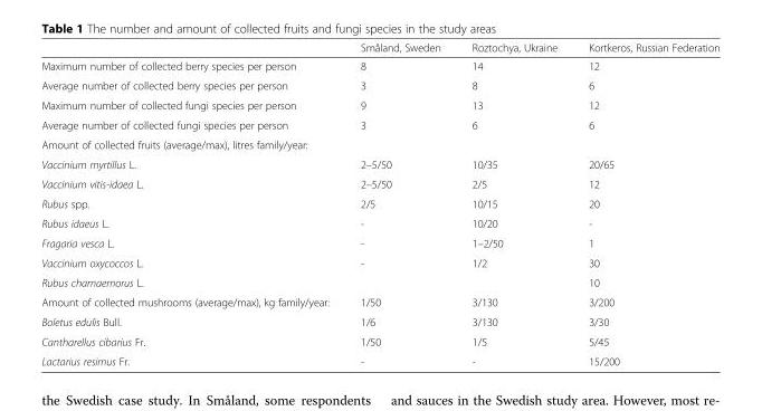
<table><thead><tr><td></td><td>Småland, Sweden</td><td>Roztochya, Ukraine</td><td>Kortkeros, Russian Federation</td></tr></thead><tbody><tr><td>Maximum number of collected berry species per person</td><td>8</td><td>14</td><td>12</td></tr><tr><td>Average number of collected berry species per person</td><td>3</td><td>8</td><td>6</td></tr><tr><td>Maximum number of collected fungi species per person</td><td>9</td><td>13</td><td>12</td></tr><tr><td>Average number of collected fungi species per person</td><td>3</td><td>6</td><td>6</td></tr><tr><td colspan="4">Amount of collected fruits (average/max), litres family/year:</td></tr><tr><td>Vaccinium myrtillus L.</td><td>2–5/50</td><td>10/35</td><td>20/65</td></tr><tr><td>Vaccinium vitis-idaea L.</td><td>2–5/50</td><td>2/5</td><td>12</td></tr><tr><td>Rubus spp.</td><td>2/5</td><td>10/15</td><td>20</td></tr><tr><td>Rubus idaeus L.</td><td>-</td><td>10/20</td><td>-</td></tr><tr><td>Fragaria vesca L.</td><td>-</td><td>1–2/50</td><td>1</td></tr><tr><td>Vaccinium oxycoccos L.</td><td>-</td><td>1/2</td><td>30</td></tr><tr><td>Rubus chamaemorus L.</td><td></td><td></td><td>10</td></tr><tr><td>Amount of collected mushrooms (average/max), kg family/year:</td><td>1/50</td><td>3/130</td><td>3/200</td></tr><tr><td>Boletus edulis Bull.</td><td>1/6</td><td>3/130</td><td>3/30</td></tr><tr><td>Cantharellus cibarius Fr.</td><td>1/50</td><td>1/5</td><td>5/45</td></tr><tr><td>Lactarius resimus Fr.</td><td>-</td><td>-</td><td>15/200</td></tr></tbody></table>